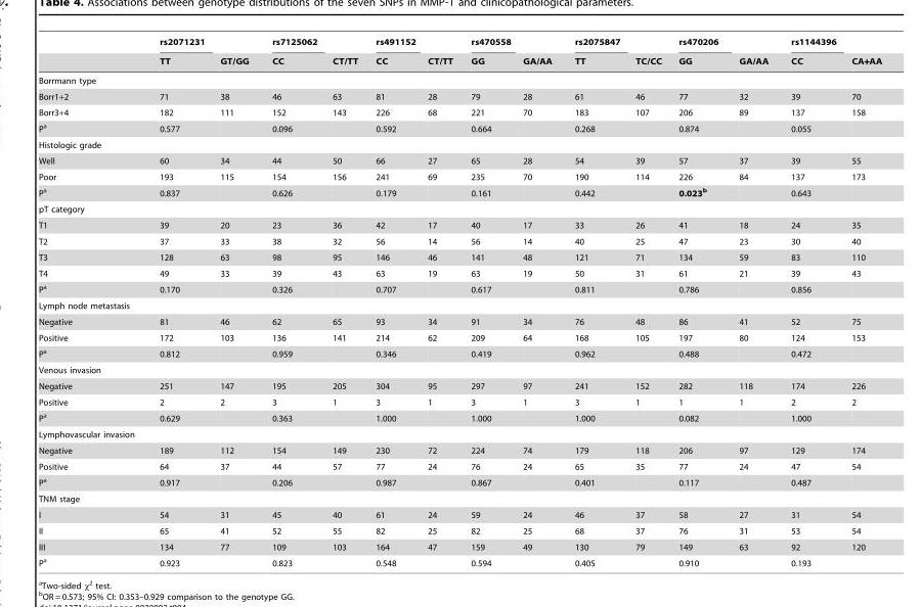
<table><thead><tr><td rowspan="2"></td><td rowspan="2">rs2071231 TT</td><td rowspan="2">GT/GG</td><td rowspan="2">rs7125062 CC</td><td rowspan="2">CT/TT</td><td rowspan="2">rs491152 CC</td><td rowspan="2">CT/TT</td><td rowspan="2">rs470558 GG</td><td rowspan="2">GA/AA</td><td rowspan="2">rs2075847 TT</td><td rowspan="2">TC/CC</td><td rowspan="2">rs470206 GG</td><td rowspan="2">GA/AA</td><td rowspan="2">rs1144396 CC</td><td rowspan="2">CA+AA</td></tr><tr></tr></thead><tbody><tr><td colspan="15">Borrmann type</td></tr><tr><td>Borr1+2</td><td>71</td><td>38</td><td>46</td><td>63</td><td>81</td><td>28</td><td>79</td><td>28</td><td>61</td><td>46</td><td>77</td><td>32</td><td>39</td><td>70</td></tr><tr><td>Borr3+4</td><td>182</td><td>111</td><td>152</td><td>143</td><td>226</td><td>68</td><td>221</td><td>70</td><td>183</td><td>107</td><td>206</td><td>89</td><td>137</td><td>158</td></tr><tr><td>P<sup>a</sup></td><td>0.577</td><td></td><td>0.096</td><td></td><td>0.592</td><td></td><td>0.664</td><td></td><td>0.268</td><td></td><td>0.874</td><td></td><td>0.055</td><td></td></tr><tr><td colspan="15">Histologic grade</td></tr><tr><td>Well</td><td>60</td><td>34</td><td>44</td><td>50</td><td>66</td><td>27</td><td>65</td><td>28</td><td>54</td><td>39</td><td>57</td><td>37</td><td>39</td><td>55</td></tr><tr><td>Poor</td><td>193</td><td>115</td><td>154</td><td>156</td><td>241</td><td>69</td><td>235</td><td>70</td><td>190</td><td>114</td><td>226</td><td>84</td><td>137</td><td>173</td></tr><tr><td>P<sup>a</sup></td><td>0.837</td><td></td><td>0.626</td><td></td><td>0.179</td><td></td><td>0.161</td><td></td><td>0.442</td><td></td><td>0.023b</td><td></td><td>0.643</td><td></td></tr><tr><td colspan="15">pT category</td></tr><tr><td>T1</td><td>39</td><td>20</td><td>23</td><td>36</td><td>42</td><td>17</td><td>40</td><td>17</td><td>33</td><td>26</td><td>41</td><td>18</td><td>24</td><td>35</td></tr><tr><td>T2</td><td>37</td><td>33</td><td>38</td><td>32</td><td>56</td><td>14</td><td>56</td><td>14</td><td>40</td><td>25</td><td>47</td><td>23</td><td>30</td><td>40</td></tr><tr><td>T3</td><td>128</td><td>63</td><td>98</td><td>95</td><td>146</td><td>46</td><td>141</td><td>48</td><td>121</td><td>71</td><td>134</td><td>59</td><td>83</td><td>110</td></tr><tr><td>T4</td><td>49</td><td>33</td><td>39</td><td>43</td><td>63</td><td>19</td><td>63</td><td>19</td><td>50</td><td>31</td><td>61</td><td>21</td><td>39</td><td>43</td></tr><tr><td>P<sup>a</sup></td><td>0.170</td><td></td><td>0.326</td><td></td><td>0.707</td><td></td><td>0.617</td><td></td><td>0.811</td><td></td><td>0.786</td><td></td><td>0.856</td><td></td></tr><tr><td colspan="15">Lymph node metastasis</td></tr><tr><td>Negative</td><td>81</td><td>46</td><td>62</td><td>65</td><td>93</td><td>34</td><td>91</td><td>34</td><td>76</td><td>48</td><td>86</td><td>41</td><td>52</td><td>75</td></tr><tr><td>Positive</td><td>172</td><td>103</td><td>136</td><td>141</td><td>214</td><td>62</td><td>209</td><td>64</td><td>168</td><td>105</td><td>197</td><td>80</td><td>124</td><td>153</td></tr><tr><td>P<sup>a</sup></td><td>0.812</td><td></td><td>0.959</td><td></td><td>0.346</td><td></td><td>0.419</td><td></td><td>0.962</td><td></td><td>0.488</td><td></td><td>0.472</td><td></td></tr><tr><td colspan="15">Venous invasion</td></tr><tr><td>Negative</td><td>251</td><td>147</td><td>195</td><td>205</td><td>304</td><td>95</td><td>297</td><td>97</td><td>241</td><td>152</td><td>282</td><td>118</td><td>174</td><td>226</td></tr><tr><td>Positive</td><td>2</td><td>2</td><td>3</td><td>1</td><td>3</td><td>1</td><td>3</td><td>1</td><td>3</td><td>1</td><td>1</td><td>1</td><td>2</td><td>2</td></tr><tr><td>P<sup>a</sup></td><td>0.629</td><td></td><td>0.363</td><td></td><td>1.000</td><td></td><td>1.000</td><td></td><td>1.000</td><td></td><td>0.082</td><td></td><td>1.000</td><td></td></tr><tr><td colspan="15">Lymphovascular invasion</td></tr><tr><td>Negative</td><td>189</td><td>112</td><td>154</td><td>149</td><td>230</td><td>72</td><td>224</td><td>74</td><td>179</td><td>118</td><td>206</td><td>97</td><td>129</td><td>174</td></tr><tr><td>Positive</td><td>64</td><td>37</td><td>44</td><td>57</td><td>77</td><td>24</td><td>76</td><td>24</td><td>65</td><td>35</td><td>77</td><td>24</td><td>47</td><td>54</td></tr><tr><td>P<sup>a</sup></td><td>0.917</td><td></td><td>0.206</td><td></td><td>0.987</td><td></td><td>0.867</td><td></td><td>0.401</td><td></td><td>0.117</td><td></td><td>0.487</td><td></td></tr><tr><td colspan="15">TNM stage</td></tr><tr><td>I</td><td>54</td><td>31</td><td>45</td><td>40</td><td>61</td><td>24</td><td>59</td><td>24</td><td>46</td><td>37</td><td>58</td><td>27</td><td>31</td><td>54</td></tr><tr><td>II</td><td>65</td><td>41</td><td>52</td><td>55</td><td>82</td><td>25</td><td>82</td><td>25</td><td>68</td><td>37</td><td>76</td><td>31</td><td>53</td><td>54</td></tr><tr><td>III</td><td>134</td><td>77</td><td>109</td><td>103</td><td>164</td><td>47</td><td>159</td><td>49</td><td>130</td><td>79</td><td>149</td><td>63</td><td>92</td><td>120</td></tr><tr><td>P<sup>a</sup></td><td>0.923</td><td></td><td>0.823</td><td></td><td>0.548</td><td></td><td>0.594</td><td></td><td>0.405</td><td></td><td>0.910</td><td></td><td>0.193</td><td></td></tr></tbody></table>